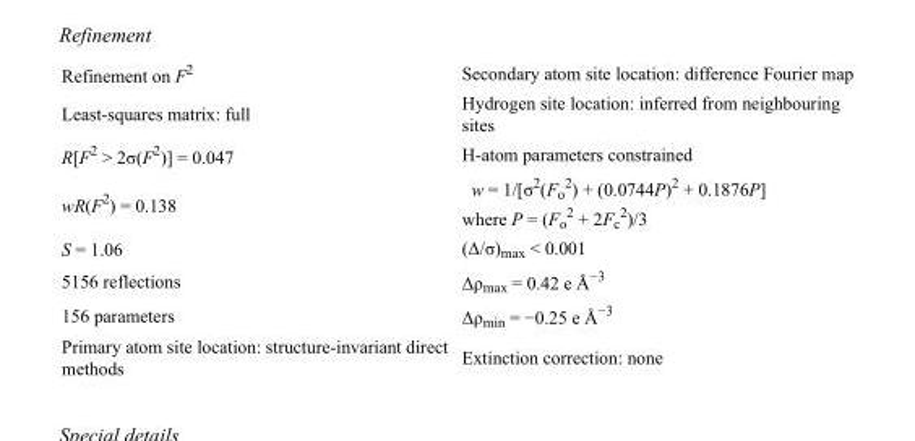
<table><tbody><tr><td>Refinement on F<sup>2</sup></td><td>Secondary atom site location: difference Fourier map</td></tr><tr><td>Least-squares matrix: full</td><td>Hydrogen site location: inferred from neighbouring sites</td></tr><tr><td>R[F<sup>2</sup> &gt; 2σ(F<sup>2</sup>)] = 0.047</td><td>H-atom parameters constrained</td></tr><tr><td>wR(F<sup>2</sup>) = 0.138</td><td>w = 1/[σ<sup>2</sup>(F<sub>o</sub> <sup>2</sup>) + (0.0744P)<sup>2</sup> + 0.1876P] where P = (F<sub>o</sub> <sup>2</sup> + 2F<sub>c</sub> <sup>2</sup>)/3</td></tr><tr><td>S = 1.06</td><td>(Δ/σ)<sub>max</sub> &lt; 0.001</td></tr><tr><td>5156 reflections</td><td>Δρ<sub>max</sub> = 0.42 e Å<sup>−3</sup></td></tr><tr><td>156 parameters</td><td>Δρ<sub>min</sub> = −0.25 e Å<sup>−3</sup></td></tr><tr><td>Primary atom site location: structure-invariant direct methods</td><td>Extinction correction: none</td></tr></tbody></table>